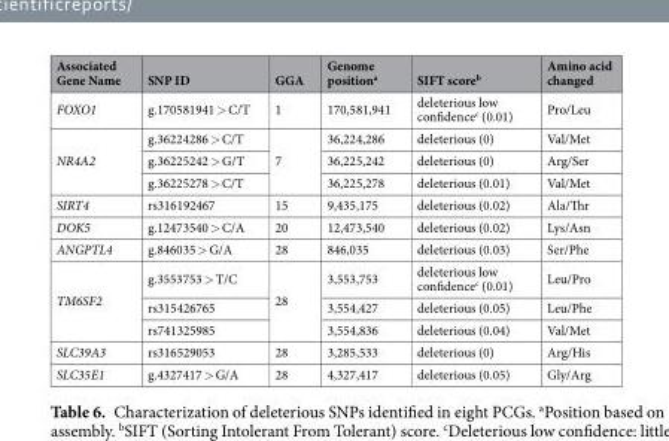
<table><thead><tr><td>Associated Gene Name</td><td>SNP ID</td><td>GGA</td><td>Genome position<sup>a</sup></td><td>SIFT score<sup>b</sup></td><td>Amino acid changed</td></tr></thead><tbody><tr><td>FOXO1</td><td>g.170581941 &gt; C/T</td><td>1</td><td>170,581,941</td><td>deleterious low confidence<sup>c</sup> (0.01)</td><td>Pro/Leu</td></tr><tr><td rowspan="3">NR4A2</td><td>g.36224286 &gt; C/T</td><td rowspan="3">7</td><td>36,224,286</td><td>deleterious (0)</td><td>Val/Met</td></tr><tr><td>g.36225242 &gt; G/T</td><td>36,225,242</td><td>deleterious (0)</td><td>Arg/Ser</td></tr><tr><td>g.36225278 &gt; C/T</td><td>36,225,278</td><td>deleterious (0.01)</td><td>Val/Met</td></tr><tr><td>SIRT4</td><td>rs316192467</td><td>15</td><td>9,435,175</td><td>deleterious (0.02)</td><td>Ala/Thr</td></tr><tr><td>DOK5</td><td>g.12473540 &gt; C/A</td><td>20</td><td>12,473,540</td><td>deleterious (0.02)</td><td>Lys/Asn</td></tr><tr><td>ANGPTL4</td><td>g.846035 &gt; G/A</td><td>28</td><td>846,035</td><td>deleterious (0.03)</td><td>Ser/Phe</td></tr><tr><td rowspan="3">TM6SF2</td><td>g.3553753 &gt; T/C</td><td rowspan="3">28</td><td>3,553,753</td><td>deleterious low confidence<sup>c</sup> (0.01)</td><td>Leu/Pro</td></tr><tr><td>rs315426765</td><td>3,554,427</td><td>deleterious (0.05)</td><td>Leu/Phe</td></tr><tr><td>rs741325985</td><td>3,554,836</td><td>deleterious (0.04)</td><td>Val/Met</td></tr><tr><td>SLC39A3</td><td>rs316529053</td><td>28</td><td>3,285,533</td><td>deleterious (0)</td><td>Arg/His</td></tr><tr><td>SLC35E1</td><td>g.4327417 &gt; G/A</td><td>28</td><td>4,327,417</td><td>deleterious (0.05)</td><td>Gly/Arg</td></tr></tbody></table>